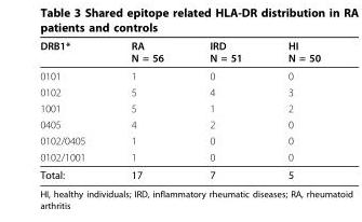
<table><thead><tr><td>DRB1*</td><td>RA N = 56</td><td>IRD N = 51</td><td>HI N = 50</td></tr></thead><tbody><tr><td>0101</td><td>1</td><td>0</td><td>0</td></tr><tr><td>0102</td><td>5</td><td>4</td><td>3</td></tr><tr><td>1001</td><td>5</td><td>1</td><td>2</td></tr><tr><td>0405</td><td>4</td><td>2</td><td>0</td></tr><tr><td>0102/0405</td><td>1</td><td>0</td><td>0</td></tr><tr><td>0102/1001</td><td>1</td><td>0</td><td>0</td></tr><tr><td>Total:</td><td>17</td><td>7</td><td>5</td></tr></tbody></table>